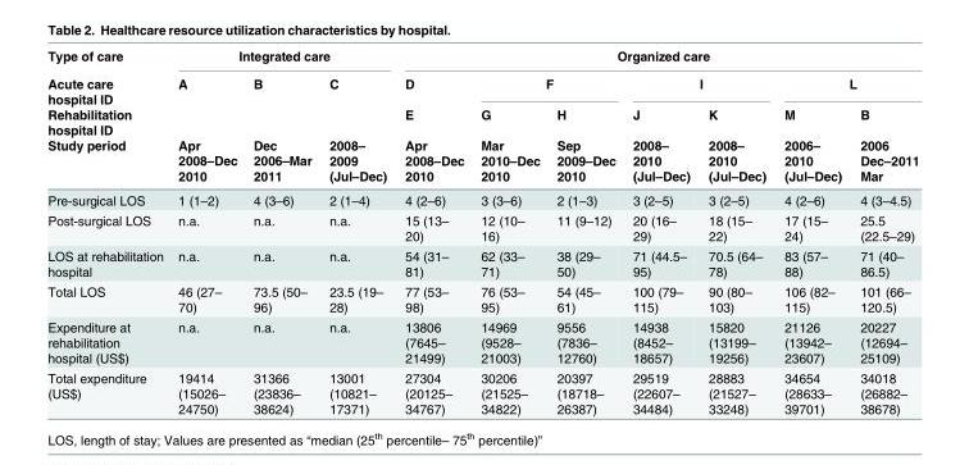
<table><thead><tr><td rowspan="4">Type of care Acute care hospital ID Rehabilitation hospital ID Study period</td><td colspan="3">Integrated care</td><td colspan="7">Organized care</td></tr><tr><td rowspan="3">A Apr 2008–Dec 2010</td><td rowspan="3">B Dec 2006–Mar 2011</td><td rowspan="3">C 2008– 2009 (Jul–Dec)</td><td rowspan="3">D E Apr 2008–Dec 2010</td><td colspan="2">F</td><td colspan="2">I</td><td colspan="2">L</td></tr><tr><td rowspan="2">G Mar 2010–Dec 2010</td><td rowspan="2">H Sep 2009–Dec 2010</td><td rowspan="2">J 2008– 2010 (Jul–Dec)</td><td rowspan="2">K 2008– 2010 (Jul–Dec)</td><td rowspan="2">M 2006– 2010 (Jul–Dec)</td><td rowspan="2">B 2006 Dec–2011 Mar</td></tr><tr></tr></thead><tbody><tr><td>Pre-surgical LOS</td><td>1 (1–2)</td><td>4 (3–6)</td><td>2 (1–4)</td><td>4 (2–6)</td><td>3 (3–6)</td><td>2 (1–3)</td><td>3 (2–5)</td><td>3 (2–5)</td><td>4 (2–6)</td><td>4 (3–4.5)</td></tr><tr><td>Post-surgical LOS</td><td>n.a.</td><td>n.a.</td><td>n.a.</td><td>15 (13– 20)</td><td>12 (10– 16)</td><td>11 (9–12)</td><td>20 (16– 29)</td><td>18 (15– 22)</td><td>17 (15– 24)</td><td>25.5 (22.5–29)</td></tr><tr><td>LOS at rehabilitation hospital</td><td>n.a.</td><td>n.a.</td><td>n.a.</td><td>54 (31– 81)</td><td>62 (33– 71)</td><td>38 (29– 50)</td><td>71 (44.5– 95)</td><td>70.5 (64– 78)</td><td>83 (57– 88)</td><td>71 (40– 86.5)</td></tr><tr><td>Total LOS</td><td>46 (27– 70)</td><td>73.5 (50– 96)</td><td>23.5 (19– 28)</td><td>77 (53– 98)</td><td>76 (53– 95)</td><td>54 (45– 61)</td><td>100 (79– 115)</td><td>90 (80– 103)</td><td>106 (82– 115)</td><td>101 (66– 120.5)</td></tr><tr><td>Expenditure at rehabilitation hospital (US$)</td><td>n.a.</td><td>n.a.</td><td>n.a.</td><td>13806 (7645– 21499)</td><td>14969 (9528– 21003)</td><td>9556 (7836– 12760)</td><td>14938 (8452– 18657)</td><td>15820 (13199– 19256)</td><td>21126 (13942– 23607)</td><td>20227 (12694– 25109)</td></tr><tr><td>Total expenditure (US$)</td><td>19414 (15026– 24750)</td><td>31366 (23836– 38624)</td><td>13001 (10821– 17371)</td><td>27304 (20125– 34767)</td><td>30206 (21525– 34822)</td><td>20397 (18718– 26387)</td><td>29519 (22607– 34484)</td><td>28883 (21527– 33248)</td><td>34654 (28633– 39701)</td><td>34018 (26882– 38678)</td></tr></tbody></table>